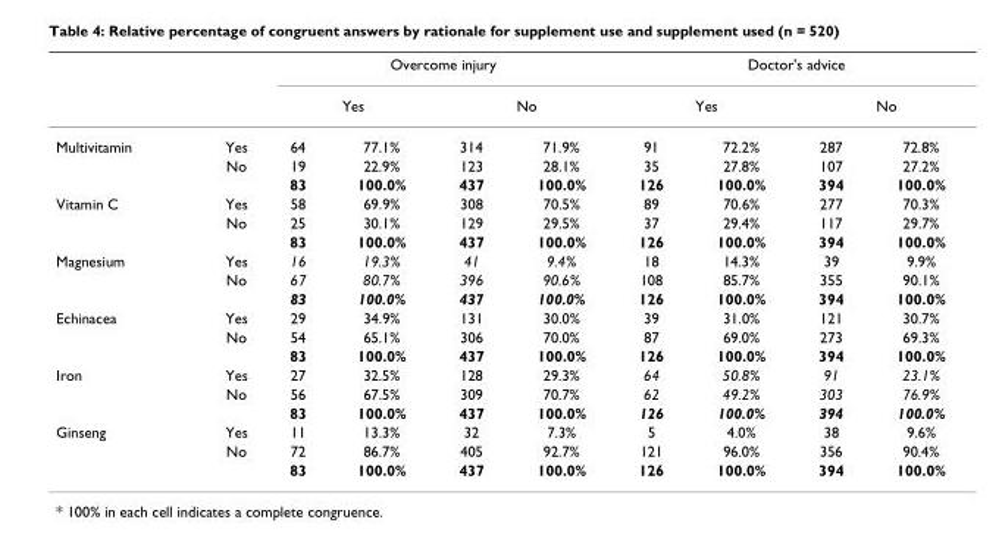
<table><thead><tr><td rowspan="3">Multivitamin</td><td rowspan="3">Yes</td><td colspan="4">Overcome injury</td><td colspan="4">Doctor&#x27;s advice</td></tr><tr><td colspan="2">Yes</td><td colspan="2">No</td><td colspan="2">Yes</td><td colspan="2">No</td></tr><tr><td>64</td><td>77.1%</td><td>314</td><td>71.9%</td><td>91</td><td>72.2%</td><td>287</td><td>72.8%</td></tr></thead><tbody><tr><td></td><td>No</td><td>19</td><td>22.9%</td><td>123</td><td>28.1%</td><td>35</td><td>27.8%</td><td>107</td><td>27.2%</td></tr><tr><td></td><td></td><td>83</td><td>100.0%</td><td>437</td><td>100.0%</td><td>126</td><td>100.0%</td><td>394</td><td>100.0%</td></tr><tr><td rowspan="3">Vitamin C</td><td>Yes</td><td>58</td><td>69.9%</td><td>308</td><td>70.5%</td><td>89</td><td>70.6%</td><td>277</td><td>70.3%</td></tr><tr><td>No</td><td>25</td><td>30.1%</td><td>129</td><td>29.5%</td><td>37</td><td>29.4%</td><td>117</td><td>29.7%</td></tr><tr><td></td><td>83</td><td>100.0%</td><td>437</td><td>100.0%</td><td>126</td><td>100.0%</td><td>394</td><td>100.0%</td></tr><tr><td rowspan="3">Magnesium</td><td>Yes</td><td>16</td><td>19.3%</td><td>41</td><td>9.4%</td><td>18</td><td>14.3%</td><td>39</td><td>9.9%</td></tr><tr><td>No</td><td>67</td><td>80.7%</td><td>396</td><td>90.6%</td><td>108</td><td>85.7%</td><td>355</td><td>90.1%</td></tr><tr><td></td><td>83</td><td>100.0%</td><td>437</td><td>100.0%</td><td>126</td><td>100.0%</td><td>394</td><td>100.0%</td></tr><tr><td rowspan="3">Echinacea</td><td>Yes</td><td>29</td><td>34.9%</td><td>131</td><td>30.0%</td><td>39</td><td>31.0%</td><td>121</td><td>30.7%</td></tr><tr><td>No</td><td>54</td><td>65.1%</td><td>306</td><td>70.0%</td><td>87</td><td>69.0%</td><td>273</td><td>69.3%</td></tr><tr><td></td><td>83</td><td>100.0%</td><td>437</td><td>100.0%</td><td>126</td><td>100.0%</td><td>394</td><td>100.0%</td></tr><tr><td rowspan="3">Iron</td><td>Yes</td><td>27</td><td>32.5%</td><td>128</td><td>29.3%</td><td>64</td><td>50.8%</td><td>91</td><td>23.1%</td></tr><tr><td>No</td><td>56</td><td>67.5%</td><td>309</td><td>70.7%</td><td>62</td><td>49.2%</td><td>303</td><td>76.9%</td></tr><tr><td></td><td>83</td><td>100.0%</td><td>437</td><td>100.0%</td><td>126</td><td>100.0%</td><td>394</td><td>100.0%</td></tr><tr><td rowspan="3">Ginseng</td><td>Yes</td><td>11</td><td>13.3%</td><td>32</td><td>7.3%</td><td>5</td><td>4.0%</td><td>38</td><td>9.6%</td></tr><tr><td>No</td><td>72</td><td>86.7%</td><td>405</td><td>92.7%</td><td>121</td><td>96.0%</td><td>356</td><td>90.4%</td></tr><tr><td></td><td>83</td><td>100.0%</td><td>437</td><td>100.0%</td><td>126</td><td>100.0%</td><td>394</td><td>100.0%</td></tr></tbody></table>